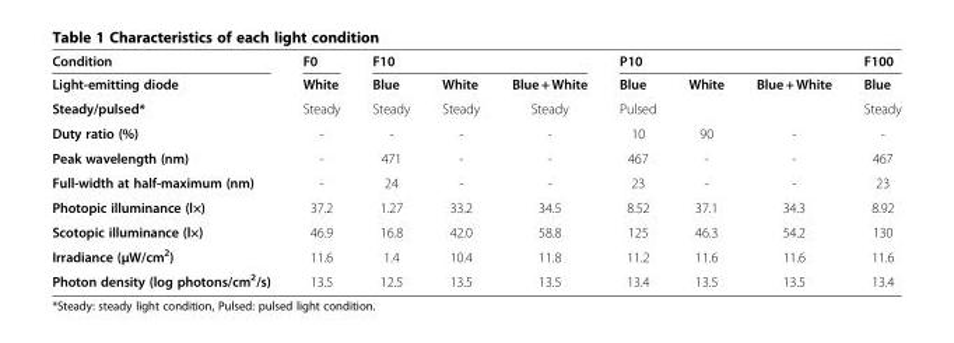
<table><thead><tr><td>Condition</td><td>F0</td><td>F10</td><td></td><td></td><td>P10</td><td></td><td></td><td>F100</td></tr></thead><tbody><tr><td>Light-emitting diode</td><td>White</td><td>Blue</td><td>White</td><td>Blue + White</td><td>Blue</td><td>White</td><td>Blue + White</td><td>Blue</td></tr><tr><td>Steady/pulsed*</td><td>Steady</td><td>Steady</td><td>Steady</td><td>Steady</td><td>Pulsed</td><td></td><td></td><td>Steady</td></tr><tr><td>Duty ratio (%)</td><td>-</td><td>-</td><td>-</td><td>-</td><td>10</td><td>90</td><td>-</td><td>-</td></tr><tr><td>Peak wavelength (nm)</td><td>-</td><td>471</td><td>-</td><td>-</td><td>467</td><td>-</td><td>-</td><td>467</td></tr><tr><td>Full-width at half-maximum (nm)</td><td>-</td><td>24</td><td>-</td><td>-</td><td>23</td><td>-</td><td>-</td><td>23</td></tr><tr><td>Photopic illuminance (l×)</td><td>37.2</td><td>1.27</td><td>33.2</td><td>34.5</td><td>8.52</td><td>37.1</td><td>34.3</td><td>8.92</td></tr><tr><td>Scotopic illuminance (l×)</td><td>46.9</td><td>16.8</td><td>42.0</td><td>58.8</td><td>125</td><td>46.3</td><td>54.2</td><td>130</td></tr><tr><td>Irradiance (μW/cm<sup>2</sup>)</td><td>11.6</td><td>1.4</td><td>10.4</td><td>11.8</td><td>11.2</td><td>11.6</td><td>11.6</td><td>11.6</td></tr><tr><td>Photon density (log photons/cm<sup>2</sup>/s)</td><td>13.5</td><td>12.5</td><td>13.5</td><td>13.5</td><td>13.4</td><td>13.5</td><td>13.5</td><td>13.4</td></tr></tbody></table>